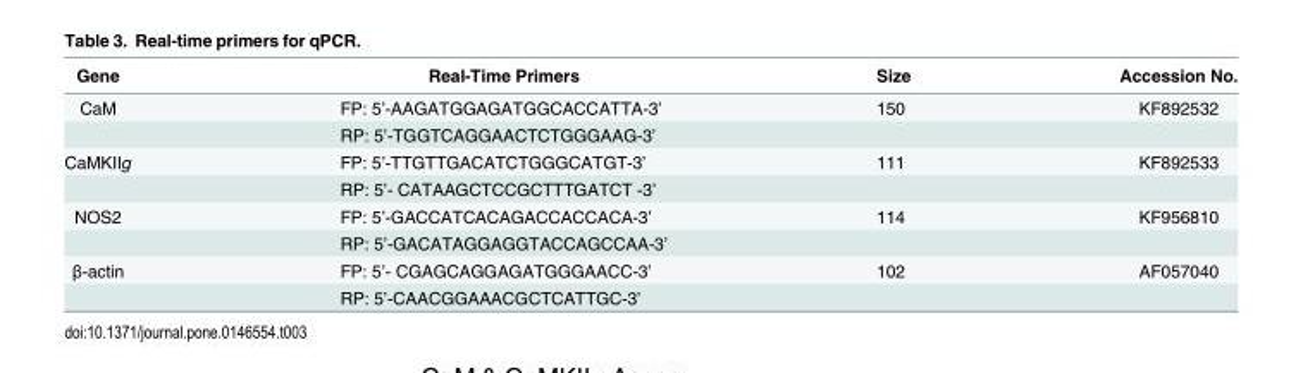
<table><thead><tr><td>Gene</td><td>Real-Time Primers</td><td>Size</td><td>Accession No.</td></tr></thead><tbody><tr><td rowspan="2">CaM</td><td>FP: 5’-AAGATGGAGATGGCACCATTA-3’</td><td>150</td><td>KF892532</td></tr><tr><td>RP: 5’-TGGTCAGGAACTCTGGGAAG-3’</td><td></td><td></td></tr><tr><td rowspan="2">CaMKIIg</td><td>FP: 5’-TTGTTGACATCTGGGCATGT-3’</td><td>111</td><td>KF892533</td></tr><tr><td>RP: 5’- CATAAGCTCCGCTTTGATCT -3’</td><td></td><td></td></tr><tr><td rowspan="2">NOS2</td><td>FP: 5’-GACCATCACAGACCACCACA-3’</td><td>114</td><td>KF956810</td></tr><tr><td>RP: 5’-GACATAGGAGGTACCAGCCAA-3’</td><td></td><td></td></tr><tr><td rowspan="2">β-actin</td><td>FP: 5’- CGAGCAGGAGATGGGAACC-3’</td><td>102</td><td>AF057040</td></tr><tr><td>RP: 5’-CAACGGAAACGCTCATTGC-3’</td><td></td><td></td></tr></tbody></table>